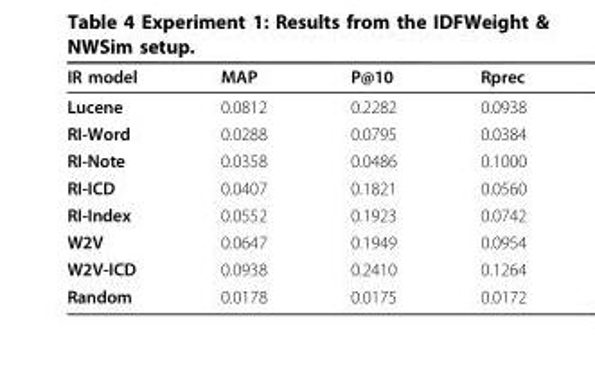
<table><thead><tr><td>IR model</td><td>MAP</td><td>P@10</td><td>Rprec</td></tr></thead><tbody><tr><td>Lucene</td><td>0.0812</td><td>0.2282</td><td>0.0938</td></tr><tr><td>RI-Word</td><td>0.0288</td><td>0.0795</td><td>0.0384</td></tr><tr><td>RI-Note</td><td>0.0358</td><td>0.0486</td><td>0.1000</td></tr><tr><td>RI-ICD</td><td>0.0407</td><td>0.1821</td><td>0.0560</td></tr><tr><td>RI-Index</td><td>0.0552</td><td>0.1923</td><td>0.0742</td></tr><tr><td>W2V</td><td>0.0647</td><td>0.1949</td><td>0.0954</td></tr><tr><td>W2V-ICD</td><td>0.0938</td><td>0.2410</td><td>0.1264</td></tr><tr><td>Random</td><td>0.0178</td><td>0.0175</td><td>0.0172</td></tr></tbody></table>